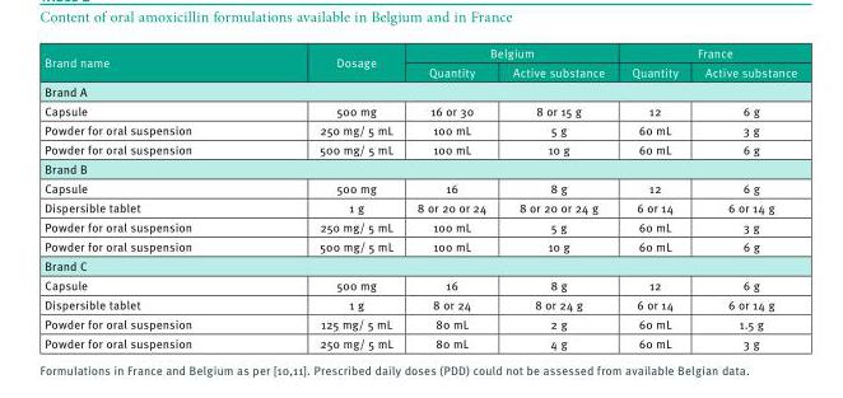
<table><thead><tr><td rowspan="2">Brand name</td><td rowspan="2">Dosage</td><td colspan="2">Belgium</td><td colspan="2">France</td></tr><tr><td>Quantity</td><td>Active substance</td><td>Quantity</td><td>Active substance</td></tr></thead><tbody><tr><td colspan="6">Brand A</td></tr><tr><td>Capsule</td><td>500 mg</td><td>16 or 30</td><td>8 or 15 g</td><td>12</td><td>6 g</td></tr><tr><td>Powder for oral suspension</td><td>250 mg/ 5 mL</td><td>100 mL</td><td>5 g</td><td>60 mL</td><td>3 g</td></tr><tr><td>Powder for oral suspension</td><td>500 mg/ 5 mL</td><td>100 mL</td><td>10 g</td><td>60 mL</td><td>6 g</td></tr><tr><td colspan="6">Brand B</td></tr><tr><td>Capsule</td><td>500 mg</td><td>16</td><td>8 g</td><td>12</td><td>6 g</td></tr><tr><td>Dispersible tablet</td><td>1 g</td><td>8 or 20 or 24</td><td>8 or 20 or 24 g</td><td>6 or 14</td><td>6 or 14 g</td></tr><tr><td>Powder for oral suspension</td><td>250 mg/ 5 mL</td><td>100 mL</td><td>5 g</td><td>60 mL</td><td>3 g</td></tr><tr><td>Powder for oral suspension</td><td>500 mg/ 5 mL</td><td>100 mL</td><td>10 g</td><td>60 mL</td><td>6 g</td></tr><tr><td colspan="6">Brand C</td></tr><tr><td>Capsule</td><td>500 mg</td><td>16</td><td>8 g</td><td>12</td><td>6 g</td></tr><tr><td>Dispersible tablet</td><td>1 g</td><td>8 or 24</td><td>8 or 24 g</td><td>6 or 14</td><td>6 or 14 g</td></tr><tr><td>Powder for oral suspension</td><td>125 mg/ 5 mL</td><td>80 mL</td><td>2 g</td><td>60 mL</td><td>1.5 g</td></tr><tr><td>Powder for oral suspension</td><td>250 mg/ 5 mL</td><td>80 mL</td><td>4 g</td><td>60 mL</td><td>3 g</td></tr></tbody></table>